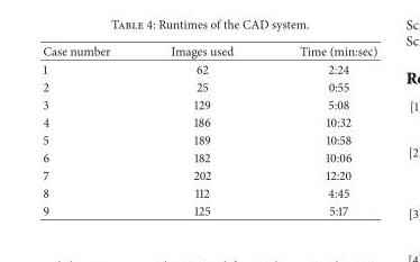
<table><thead><tr><td>Case number</td><td>Images used</td><td>Time (min:sec)</td></tr></thead><tbody><tr><td>1</td><td>62</td><td>2:24</td></tr><tr><td>2</td><td>25</td><td>0:55</td></tr><tr><td>3</td><td>129</td><td>5:08</td></tr><tr><td>4</td><td>186</td><td>10:32</td></tr><tr><td>5</td><td>189</td><td>10:58</td></tr><tr><td>6</td><td>182</td><td>10:06</td></tr><tr><td>7</td><td>202</td><td>12:20</td></tr><tr><td>8</td><td>112</td><td>4:45</td></tr><tr><td>9</td><td>125</td><td>5:17</td></tr></tbody></table>